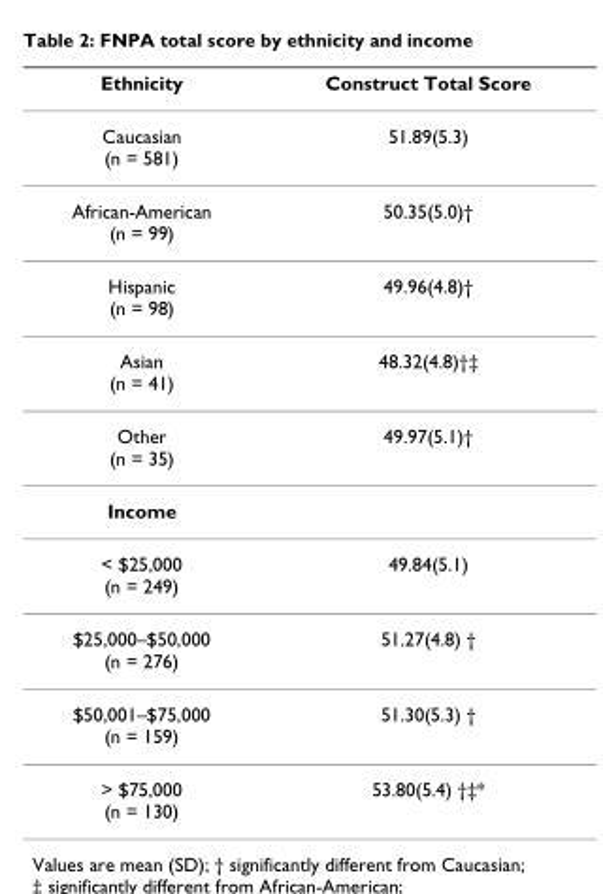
<table><thead><tr><td>Ethnicity</td><td>Construct Total Score</td></tr></thead><tbody><tr><td>Caucasian (n = 581)</td><td>51.89(5.3)</td></tr><tr><td>African-American (n = 99)</td><td>50.35(5.0)†</td></tr><tr><td>Hispanic (n = 98)</td><td>49.96(4.8)†</td></tr><tr><td>Asian (n = 41)</td><td>48.32(4.8)†‡</td></tr><tr><td>Other (n = 35)</td><td>49.97(5.1)†</td></tr><tr><td colspan="2">Income</td></tr><tr><td>&lt; $25,000 (n = 249)</td><td>49.84(5.1)</td></tr><tr><td>$25,000–$50,000 (n = 276)</td><td>51.27(4.8) †</td></tr><tr><td>$50,001–$75,000 (n = 159)</td><td>51.30(5.3) †</td></tr><tr><td>&gt; $75,000 (n = 130)</td><td>53.80(5.4) †‡*</td></tr></tbody></table>